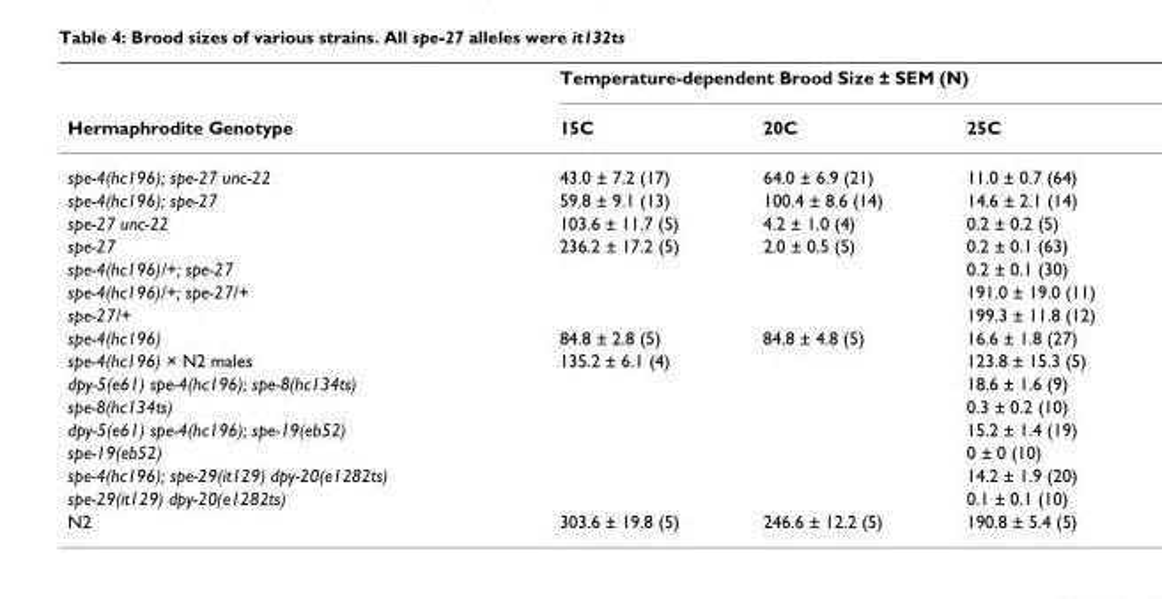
<table><thead><tr><td rowspan="2">Hermaphrodite Genotype</td><td colspan="3">Temperature-dependent Brood Size ± SEM (N)</td></tr><tr><td>15C</td><td>20C</td><td>25C</td></tr></thead><tbody><tr><td>spe-4(hc196); spe-27 unc-22</td><td>43.0 ± 7.2 (17)</td><td>64.0 ± 6.9 (21)</td><td>11.0 ± 0.7 (64)</td></tr><tr><td>spe-4(hc196); spe-27</td><td>59.8 ± 9.1 (13)</td><td>100.4 ± 8.6 (14)</td><td>14.6 ± 2.1 (14)</td></tr><tr><td>spe-27 unc-22</td><td>103.6 ± 11.7 (5)</td><td>4.2 ± 1.0 (4)</td><td>0.2 ± 0.2 (5)</td></tr><tr><td>spe-27</td><td>236.2 ± 17.2 (5)</td><td>2.0 ± 0.5 (5)</td><td>0.2 ± 0.1 (63)</td></tr><tr><td>spe-4(hc196)/+; spe-27</td><td></td><td></td><td>0.2 ± 0.1 (30)</td></tr><tr><td>spe-4(hc196)/+; spe-27/+</td><td></td><td></td><td>191.0 ± 19.0 (11)</td></tr><tr><td>spe-27/+</td><td></td><td></td><td>199.3 ± 11.8 (12)</td></tr><tr><td>spe-4(hc196)</td><td>84.8 ± 2.8 (5)</td><td>84.8 ± 4.8 (5)</td><td>16.6 ± 1.8 (27)</td></tr><tr><td>spe-4(hc196) × N2 males</td><td>135.2 ± 6.1 (4)</td><td></td><td>123.8 ± 15.3 (5)</td></tr><tr><td>dpy-5(e61) spe-4(hc196); spe-8(hc134ts)</td><td></td><td></td><td>18.6 ± 1.6 (9)</td></tr><tr><td>spe-8(hc134ts)</td><td></td><td></td><td>0.3 ± 0.2 (10)</td></tr><tr><td>dpy-5(e61) spe-4(hc196); spe-19(eb52)</td><td></td><td></td><td>15.2 ± 1.4 (19)</td></tr><tr><td>spe-19(eb52)</td><td></td><td></td><td>0 ± 0 (10)</td></tr><tr><td>spe-4(hc196); spe-29(it129) dpy-20(e1282ts)</td><td></td><td></td><td>14.2 ± 1.9 (20)</td></tr><tr><td>spe-29(it129) dpy-20(e1282ts)</td><td></td><td></td><td>0.1 ± 0.1 (10)</td></tr><tr><td>N2</td><td>303.6 ± 19.8 (5)</td><td>246.6 ± 12.2 (5)</td><td>190.8 ± 5.4 (5)</td></tr></tbody></table>